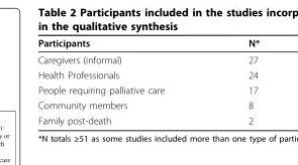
<table><thead><tr><td>Participants</td><td>N*</td></tr></thead><tbody><tr><td>Caregivers (informal)</td><td>27</td></tr><tr><td>Health Professionals</td><td>24</td></tr><tr><td>People requiring palliative care</td><td>17</td></tr><tr><td>Community members</td><td>8</td></tr><tr><td>Family post-death</td><td>2</td></tr></tbody></table>